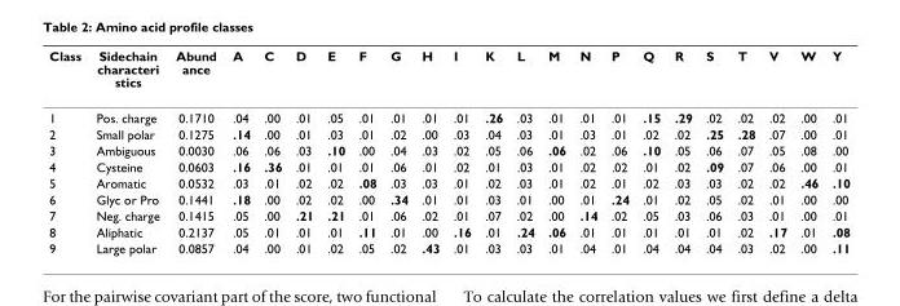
<table><thead><tr><td>Class</td><td>Sidechain characteri stics</td><td>Abund ance</td><td>A</td><td>C</td><td>D</td><td>E</td><td>F</td><td>G</td><td>H</td><td>I</td><td>K</td><td>L</td><td>M</td><td>N</td><td>P</td><td>Q</td><td>R</td><td>S</td><td>T</td><td>V</td><td>W</td><td>Y</td></tr></thead><tbody><tr><td>1</td><td>Pos. charge</td><td>0.1710</td><td>.04</td><td>.00</td><td>.01</td><td>.05</td><td>.01</td><td>.01</td><td>.01</td><td>.01</td><td>.26</td><td>.03</td><td>.01</td><td>.01</td><td>.01</td><td>.15</td><td>.29</td><td>.02</td><td>.02</td><td>.02</td><td>.00</td><td>.01</td></tr><tr><td>2</td><td>Small polar</td><td>0.1275</td><td>.14</td><td>.00</td><td>.01</td><td>.03</td><td>.01</td><td>.02</td><td>.00</td><td>.03</td><td>.04</td><td>.03</td><td>.01</td><td>.03</td><td>.01</td><td>.02</td><td>.02</td><td>.25</td><td>.28</td><td>.07</td><td>.00</td><td>.01</td></tr><tr><td>3</td><td>Ambiguous</td><td>0.0030</td><td>.06</td><td>.06</td><td>.03</td><td>.10</td><td>.00</td><td>.04</td><td>.03</td><td>.02</td><td>.05</td><td>.06</td><td>.06</td><td>.02</td><td>.06</td><td>.10</td><td>.05</td><td>.06</td><td>.07</td><td>.05</td><td>.08</td><td>.00</td></tr><tr><td>4</td><td>Cysteine</td><td>0.0603</td><td>.16</td><td>.36</td><td>.01</td><td>.01</td><td>.01</td><td>.06</td><td>.01</td><td>.02</td><td>.01</td><td>.03</td><td>.01</td><td>.02</td><td>.02</td><td>.01</td><td>.02</td><td>.09</td><td>.07</td><td>.06</td><td>.00</td><td>.01</td></tr><tr><td>5</td><td>Aromatic</td><td>0.0532</td><td>.03</td><td>.01</td><td>.02</td><td>.02</td><td>.08</td><td>.03</td><td>.03</td><td>.01</td><td>.02</td><td>.03</td><td>.01</td><td>.02</td><td>.01</td><td>.02</td><td>.03</td><td>.03</td><td>.02</td><td>.02</td><td>.46</td><td>.10</td></tr><tr><td>6</td><td>Glyc or Pro</td><td>0.1441</td><td>.18</td><td>.00</td><td>.02</td><td>.02</td><td>.00</td><td>.34</td><td>.01</td><td>.01</td><td>.03</td><td>.01</td><td>.00</td><td>.01</td><td>.24</td><td>.01</td><td>.02</td><td>.05</td><td>.02</td><td>.01</td><td>.00</td><td>.00</td></tr><tr><td>7</td><td>Neg. charge</td><td>0.1415</td><td>.05</td><td>.00</td><td>.21</td><td>.21</td><td>.01</td><td>.06</td><td>.02</td><td>.01</td><td>.07</td><td>.02</td><td>.00</td><td>.14</td><td>.02</td><td>.05</td><td>.03</td><td>.06</td><td>.03</td><td>.01</td><td>.00</td><td>.01</td></tr><tr><td>8</td><td>Aliphatic</td><td>0.2137</td><td>.05</td><td>.01</td><td>.01</td><td>.01</td><td>.11</td><td>.01</td><td>.00</td><td>.16</td><td>.01</td><td>.24</td><td>.06</td><td>.01</td><td>.01</td><td>.01</td><td>.01</td><td>.01</td><td>.02</td><td>.17</td><td>.01</td><td>.08</td></tr><tr><td>9</td><td>Large polar</td><td>0.0857</td><td>.04</td><td>.00</td><td>.01</td><td>.02</td><td>.05</td><td>.02</td><td>.43</td><td>.01</td><td>.03</td><td>.03</td><td>.01</td><td>.04</td><td>.01</td><td>.04</td><td>.04</td><td>.04</td><td>.03</td><td>.02</td><td>.00</td><td>.11</td></tr></tbody></table>